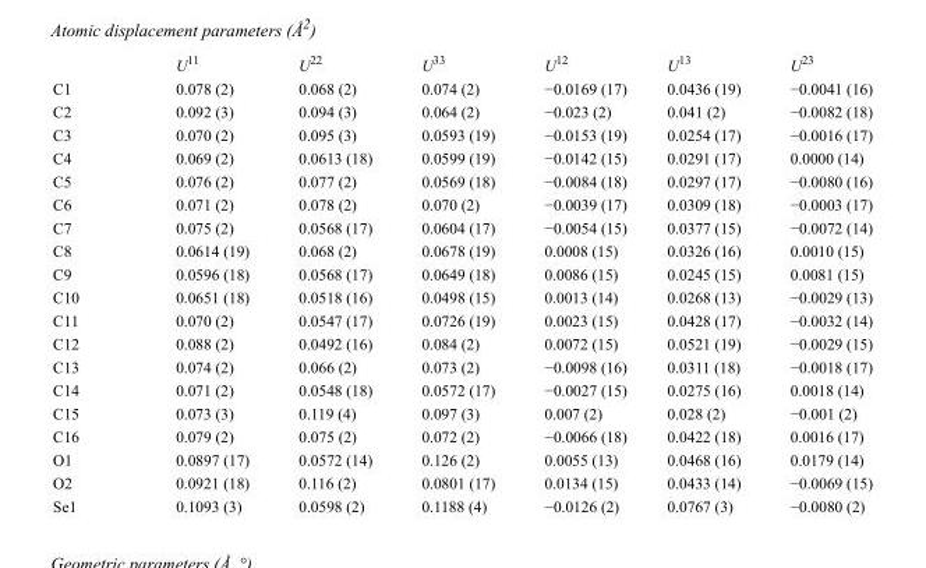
<table><thead><tr><td></td><td>U<sup>11</sup></td><td>U<sup>22</sup></td><td>U<sup>33</sup></td><td>U<sup>12</sup></td><td>U<sup>13</sup></td><td>U<sup>23</sup></td></tr></thead><tbody><tr><td>C1</td><td>0.078 (2)</td><td>0.068 (2)</td><td>0.074 (2)</td><td>−0.0169 (17)</td><td>0.0436 (19)</td><td>−0.0041 (16)</td></tr><tr><td>C2</td><td>0.092 (3)</td><td>0.094 (3)</td><td>0.064 (2)</td><td>−0.023 (2)</td><td>0.041 (2)</td><td>−0.0082 (18)</td></tr><tr><td>C3</td><td>0.070 (2)</td><td>0.095 (3)</td><td>0.0593 (19)</td><td>−0.0153 (19)</td><td>0.0254 (17)</td><td>−0.0016 (17)</td></tr><tr><td>C4</td><td>0.069 (2)</td><td>0.0613 (18)</td><td>0.0599 (19)</td><td>−0.0142 (15)</td><td>0.0291 (17)</td><td>0.0000 (14)</td></tr><tr><td>C5</td><td>0.076 (2)</td><td>0.077 (2)</td><td>0.0569 (18)</td><td>−0.0084 (18)</td><td>0.0297 (17)</td><td>−0.0080 (16)</td></tr><tr><td>C6</td><td>0.071 (2)</td><td>0.078 (2)</td><td>0.070 (2)</td><td>−0.0039 (17)</td><td>0.0309 (18)</td><td>−0.0003 (17)</td></tr><tr><td>C7</td><td>0.075 (2)</td><td>0.0568 (17)</td><td>0.0604 (17)</td><td>−0.0054 (15)</td><td>0.0377 (15)</td><td>−0.0072 (14)</td></tr><tr><td>C8</td><td>0.0614 (19)</td><td>0.068 (2)</td><td>0.0678 (19)</td><td>0.0008 (15)</td><td>0.0326 (16)</td><td>0.0010 (15)</td></tr><tr><td>C9</td><td>0.0596 (18)</td><td>0.0568 (17)</td><td>0.0649 (18)</td><td>0.0086 (15)</td><td>0.0245 (15)</td><td>0.0081 (15)</td></tr><tr><td>C10</td><td>0.0651 (18)</td><td>0.0518 (16)</td><td>0.0498 (15)</td><td>0.0013 (14)</td><td>0.0268 (13)</td><td>−0.0029 (13)</td></tr><tr><td>C11</td><td>0.070 (2)</td><td>0.0547 (17)</td><td>0.0726 (19)</td><td>0.0023 (15)</td><td>0.0428 (17)</td><td>−0.0032 (14)</td></tr><tr><td>C12</td><td>0.088 (2)</td><td>0.0492 (16)</td><td>0.084 (2)</td><td>0.0072 (15)</td><td>0.0521 (19)</td><td>−0.0029 (15)</td></tr><tr><td>C13</td><td>0.074 (2)</td><td>0.066 (2)</td><td>0.073 (2)</td><td>−0.0098 (16)</td><td>0.0311 (18)</td><td>−0.0018 (17)</td></tr><tr><td>C14</td><td>0.071 (2)</td><td>0.0548 (18)</td><td>0.0572 (17)</td><td>−0.0027 (15)</td><td>0.0275 (16)</td><td>0.0018 (14)</td></tr><tr><td>C15</td><td>0.073 (3)</td><td>0.119 (4)</td><td>0.097 (3)</td><td>0.007 (2)</td><td>0.028 (2)</td><td>−0.001 (2)</td></tr><tr><td>C16</td><td>0.079 (2)</td><td>0.075 (2)</td><td>0.072 (2)</td><td>−0.0066 (18)</td><td>0.0422 (18)</td><td>0.0016 (17)</td></tr><tr><td>O1</td><td>0.0897 (17)</td><td>0.0572 (14)</td><td>0.126 (2)</td><td>0.0055 (13)</td><td>0.0468 (16)</td><td>0.0179 (14)</td></tr><tr><td>O2</td><td>0.0921 (18)</td><td>0.116 (2)</td><td>0.0801 (17)</td><td>0.0134 (15)</td><td>0.0433 (14)</td><td>−0.0069 (15)</td></tr><tr><td>Se1</td><td>0.1093 (3)</td><td>0.0598 (2)</td><td>0.1188 (4)</td><td>−0.0126 (2)</td><td>0.0767 (3)</td><td>−0.0080 (2)</td></tr></tbody></table>